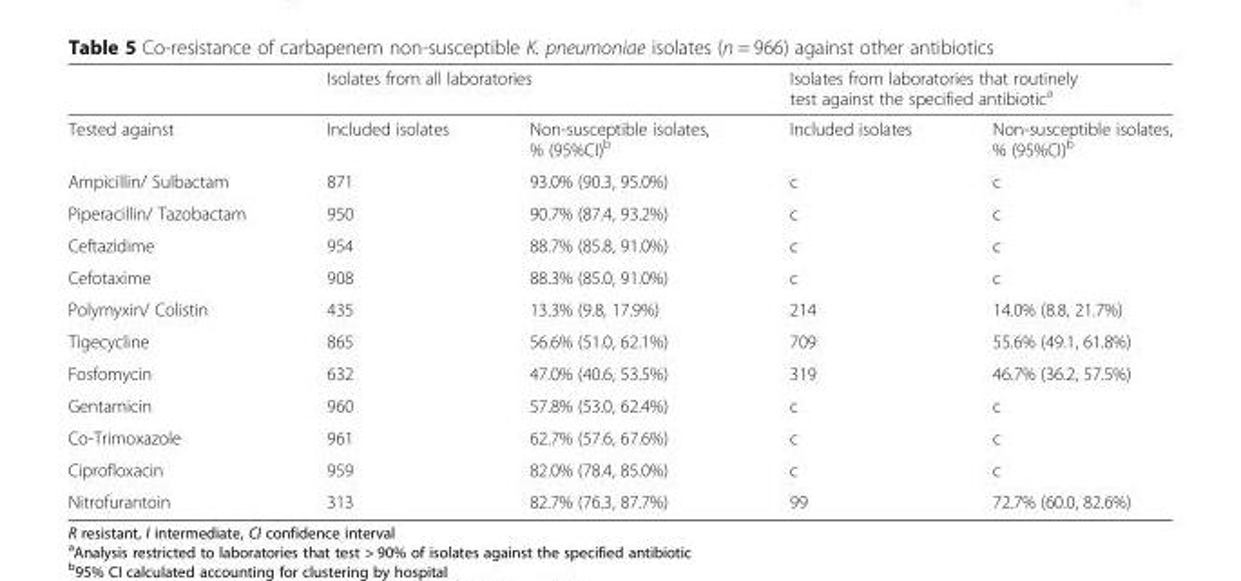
<table><thead><tr><td rowspan="2">Tested against</td><td colspan="2">Isolates from all laboratories</td><td colspan="2">Isolates from laboratories that routinely test against the specified antibiotic<sup>a</sup></td></tr><tr><td>Included isolates</td><td>Non-susceptible isolates, % (95%CI)<sup>b</sup></td><td>Included isolates</td><td>Non-susceptible isolates, % (95%CI)<sup>b</sup></td></tr></thead><tbody><tr><td>Ampicillin/ Sulbactam</td><td>871</td><td>93.0% (90.3, 95.0%)</td><td>c</td><td>c</td></tr><tr><td>Piperacillin/ Tazobactam</td><td>950</td><td>90.7% (87.4, 93.2%)</td><td>c</td><td>c</td></tr><tr><td>Ceftazidime</td><td>954</td><td>88.7% (85.8, 91.0%)</td><td>c</td><td>c</td></tr><tr><td>Cefotaxime</td><td>908</td><td>88.3% (85.0, 91.0%)</td><td>c</td><td>c</td></tr><tr><td>Polymyxin/ Colistin</td><td>435</td><td>13.3% (9.8, 17.9%)</td><td>214</td><td>14.0% (8.8, 21.7%)</td></tr><tr><td>Tigecycline</td><td>865</td><td>56.6% (51.0, 62.1%)</td><td>709</td><td>55.6% (49.1, 61.8%)</td></tr><tr><td>Fosfomycin</td><td>632</td><td>47.0% (40.6, 53.5%)</td><td>319</td><td>46.7% (36.2, 57.5%)</td></tr><tr><td>Gentamicin</td><td>960</td><td>57.8% (53.0, 62.4%)</td><td>c</td><td>c</td></tr><tr><td>Co-Trimoxazole</td><td>961</td><td>62.7% (57.6, 67.6%)</td><td>c</td><td>c</td></tr><tr><td>Ciprofloxacin</td><td>959</td><td>82.0% (78.4, 85.0%)</td><td>c</td><td>c</td></tr><tr><td>Nitrofurantoin</td><td>313</td><td>82.7% (76.3, 87.7%)</td><td>99</td><td>72.7% (60.0, 82.6%)</td></tr></tbody></table>